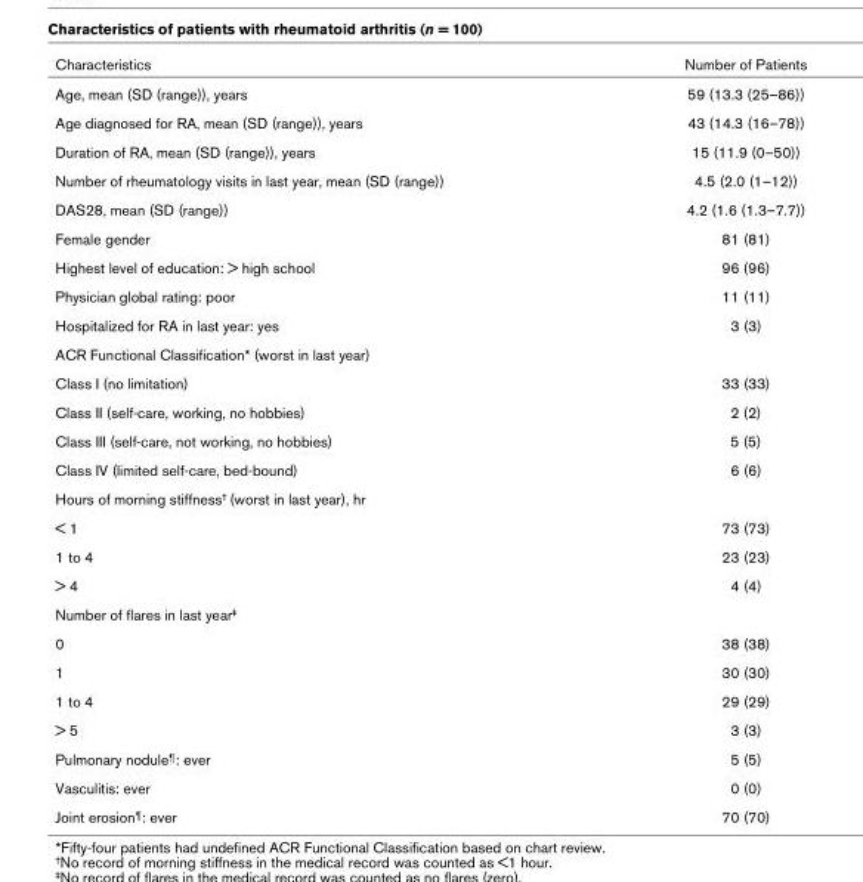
<table><thead><tr><td>Characteristics</td><td>Number of Patients</td></tr></thead><tbody><tr><td>Age, mean (SD (range)), years</td><td>59 (13.3 (25–86))</td></tr><tr><td>Age diagnosed for RA, mean (SD (range)), years</td><td>43 (14.3 (16–78))</td></tr><tr><td>Duration of RA, mean (SD (range)), years</td><td>15 (11.9 (0–50))</td></tr><tr><td>Number of rheumatology visits in last year, mean (SD (range))</td><td>4.5 (2.0 (1–12))</td></tr><tr><td>DAS28, mean (SD (range))</td><td>4.2 (1.6 (1.3–7.7))</td></tr><tr><td>Female gender</td><td>81 (81)</td></tr><tr><td>Highest level of education: &gt; high school</td><td>96 (96)</td></tr><tr><td>Physician global rating: poor</td><td>11 (11)</td></tr><tr><td>Hospitalized for RA in last year: yes</td><td>3 (3)</td></tr><tr><td colspan="2">ACR Functional Classification* (worst in last year)</td></tr><tr><td>Class I (no limitation)</td><td>33 (33)</td></tr><tr><td>Class II (self-care, working, no hobbies)</td><td>2 (2)</td></tr><tr><td>Class III (self-care, not working, no hobbies)</td><td>5 (5)</td></tr><tr><td>Class IV (limited self-care, bed-bound)</td><td>6 (6)</td></tr><tr><td colspan="2">Hours of morning stiffness† (worst in last year), hr</td></tr><tr><td>&lt; 1</td><td>73 (73)</td></tr><tr><td>1 to 4</td><td>23 (23)</td></tr><tr><td>&gt; 4</td><td>4 (4)</td></tr><tr><td colspan="2">Number of flares in last year‡</td></tr><tr><td>0</td><td>38 (38)</td></tr><tr><td>1</td><td>30 (30)</td></tr><tr><td>1 to 4</td><td>29 (29)</td></tr><tr><td>&gt; 5</td><td>3 (3)</td></tr><tr><td>Pulmonary nodule¶: ever</td><td>5 (5)</td></tr><tr><td>Vasculitis: ever</td><td>0 (0)</td></tr><tr><td>Joint erosion¶: ever</td><td>70 (70)</td></tr></tbody></table>